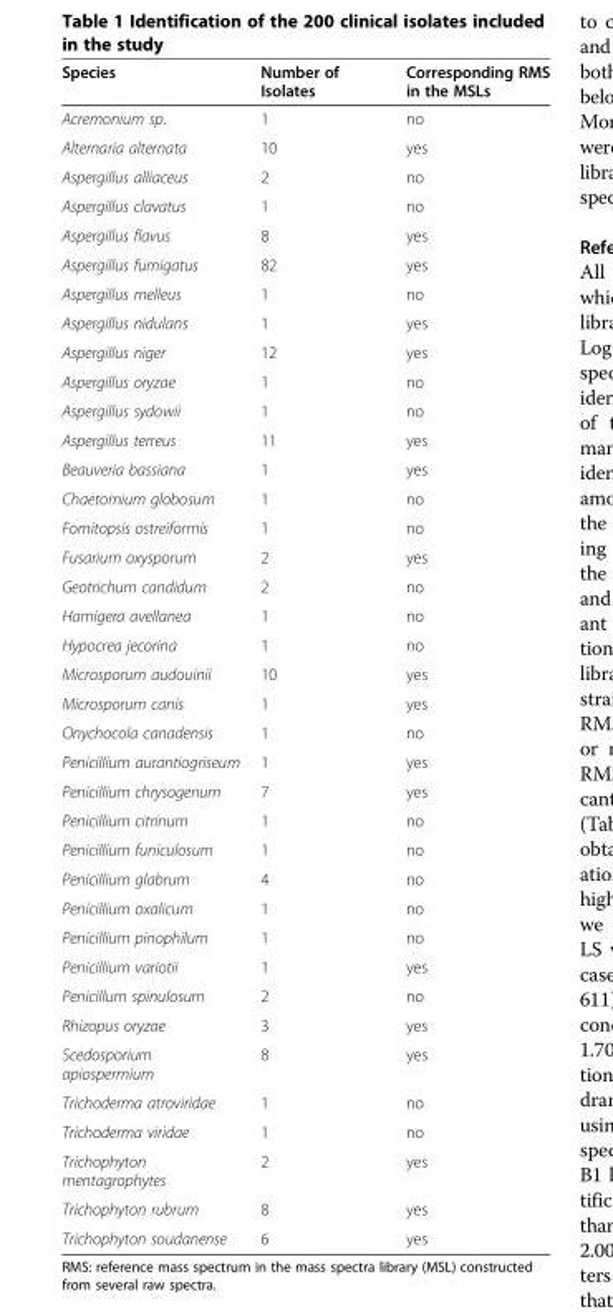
<table><thead><tr><td>Species</td><td>Number of Isolates</td><td>Corresponding RMS in the MSLs</td></tr></thead><tbody><tr><td>Acremonium sp.</td><td>1</td><td>no</td></tr><tr><td>Alternaria alternata</td><td>10</td><td>yes</td></tr><tr><td>Aspergillus alliaceus</td><td>2</td><td>no</td></tr><tr><td>Aspergillus clavatus</td><td>1</td><td>no</td></tr><tr><td>Aspergillus flavus</td><td>8</td><td>yes</td></tr><tr><td>Aspergillus fumigatus</td><td>82</td><td>yes</td></tr><tr><td>Aspergillus melleus</td><td>1</td><td>no</td></tr><tr><td>Aspergillus nidulans</td><td>1</td><td>yes</td></tr><tr><td>Aspergillus niger</td><td>12</td><td>yes</td></tr><tr><td>Aspergillus oryzae</td><td>1</td><td>no</td></tr><tr><td>Aspergillus sydowii</td><td>1</td><td>no</td></tr><tr><td>Aspergillus terreus</td><td>11</td><td>yes</td></tr><tr><td>Beauveria bassiana</td><td>1</td><td>yes</td></tr><tr><td>Chaetomium globosum</td><td>1</td><td>no</td></tr><tr><td>Fomitopsis ostreiformis</td><td>1</td><td>no</td></tr><tr><td>Fusarium oxysporum</td><td>2</td><td>yes</td></tr><tr><td>Geotrichum candidum</td><td>2</td><td>no</td></tr><tr><td>Hamigera avellanea</td><td>1</td><td>no</td></tr><tr><td>Hypocrea jecorina</td><td>1</td><td>no</td></tr><tr><td>Microsporum audouinii</td><td>10</td><td>yes</td></tr><tr><td>Microsporum canis</td><td>1</td><td>yes</td></tr><tr><td>Onychocola canadensis</td><td>1</td><td>no</td></tr><tr><td>Penicillium aurantiogriseum</td><td>1</td><td>yes</td></tr><tr><td>Penicillium chrysogenum</td><td>7</td><td>yes</td></tr><tr><td>Penicillium citrinum</td><td>1</td><td>no</td></tr><tr><td>Penicillium funiculosum</td><td>1</td><td>no</td></tr><tr><td>Penicillium glabrum</td><td>4</td><td>no</td></tr><tr><td>Penicillium oxalicum</td><td>1</td><td>no</td></tr><tr><td>Penicillium pinophilum</td><td>1</td><td>no</td></tr><tr><td>Penicillium variotii</td><td>1</td><td>yes</td></tr><tr><td>Penicillum spinulosum</td><td>2</td><td>no</td></tr><tr><td>Rhizopus oryzae</td><td>3</td><td>yes</td></tr><tr><td>Scedosporium apiospermium</td><td>8</td><td>yes</td></tr><tr><td>Trichoderma atroviridae</td><td>1</td><td>no</td></tr><tr><td>Trichoderma viridae</td><td>1</td><td>no</td></tr><tr><td>Trichophyton mentagrophytes</td><td>2</td><td>yes</td></tr><tr><td>Trichophyton rubrum</td><td>8</td><td>yes</td></tr><tr><td>Trichophyton soudanense</td><td>6</td><td>yes</td></tr></tbody></table>